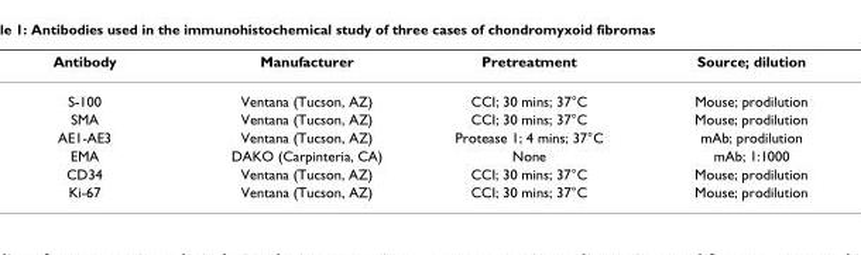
<table><thead><tr><td>Antibody</td><td>Manufacturer</td><td>Pretreatment</td><td>Source; dilution</td></tr></thead><tbody><tr><td>S-100</td><td>Ventana (Tucson, AZ)</td><td>CCI; 30 mins; 37°C</td><td>Mouse; prodilution</td></tr><tr><td>SMA</td><td>Ventana (Tucson, AZ)</td><td>CCI; 30 mins; 37°C</td><td>Mouse; prodilution</td></tr><tr><td>AE1-AE3</td><td>Ventana (Tucson, AZ)</td><td>Protease 1; 4 mins; 37°C</td><td>mAb; prodilution</td></tr><tr><td>EMA</td><td>DAKO (Carpinteria, CA)</td><td>None</td><td>mAb; 1:1000</td></tr><tr><td>CD34</td><td>Ventana (Tucson, AZ)</td><td>CCI; 30 mins; 37°C</td><td>Mouse; prodilution</td></tr><tr><td>Ki-67</td><td>Ventana (Tucson, AZ)</td><td>CCI; 30 mins; 37°C</td><td>Mouse; prodilution</td></tr></tbody></table>